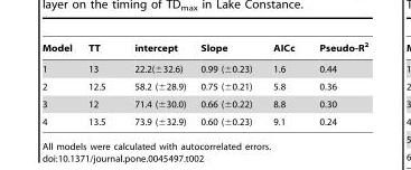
<table><thead><tr><td>Model</td><td>TT</td><td>intercept</td><td>Slope</td><td>AICc</td><td>Pseudo-R<sup>2</sup></td></tr></thead><tbody><tr><td>1</td><td>13</td><td>22.2(±32.6)</td><td>0.99 (±0.23)</td><td>1.6</td><td>0.44</td></tr><tr><td>2</td><td>12.5</td><td>58.2 (±28.9)</td><td>0.75 (±0.21)</td><td>5.8</td><td>0.36</td></tr><tr><td>3</td><td>12</td><td>71.4 (±30.0)</td><td>0.66 (±0.22)</td><td>8.8</td><td>0.30</td></tr><tr><td>4</td><td>13.5</td><td>73.9 (±32.9)</td><td>0.60 (±0.23)</td><td>9.1</td><td>0.24</td></tr></tbody></table>